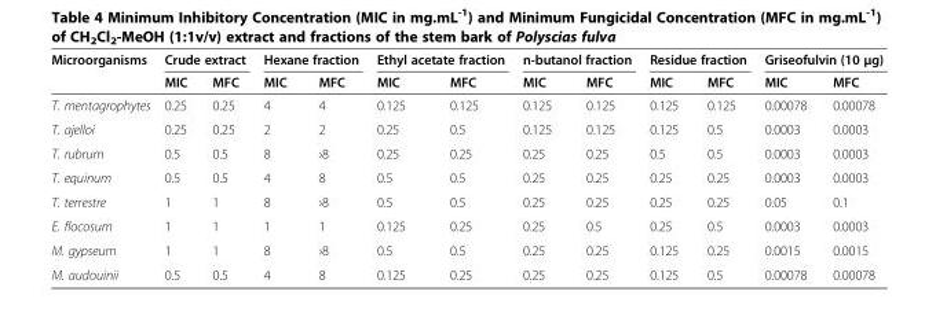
<table><thead><tr><td rowspan="2">Microorganisms</td><td colspan="2">Crude extract</td><td colspan="2">Hexane fraction</td><td colspan="2">Ethyl acetate fraction</td><td colspan="2">n-butanol fraction</td><td colspan="2">Residue fraction</td><td colspan="2">Griseofulvin (10 μg)</td></tr><tr><td>MIC</td><td>MFC</td><td>MIC</td><td>MFC</td><td>MIC</td><td>MFC</td><td>MIC</td><td>MFC</td><td>MIC</td><td>MFC</td><td>MIC</td><td>MFC</td></tr></thead><tbody><tr><td>T. mentagrophytes</td><td>0.25</td><td>0.25</td><td>4</td><td>4</td><td>0.125</td><td>0.125</td><td>0.125</td><td>0.125</td><td>0.125</td><td>0.125</td><td>0.00078</td><td>0.00078</td></tr><tr><td>T. ajelloi</td><td>0.25</td><td>0.25</td><td>2</td><td>2</td><td>0.25</td><td>0.5</td><td>0.125</td><td>0.125</td><td>0.125</td><td>0.5</td><td>0.0003</td><td>0.0003</td></tr><tr><td>T. rubrum</td><td>0.5</td><td>0.5</td><td>8</td><td>›8</td><td>0.25</td><td>0.25</td><td>0.25</td><td>0.25</td><td>0.5</td><td>0.5</td><td>0.0003</td><td>0.0003</td></tr><tr><td>T. equinum</td><td>0.5</td><td>0.5</td><td>4</td><td>8</td><td>0.5</td><td>0.5</td><td>0.25</td><td>0.25</td><td>0.25</td><td>0.25</td><td>0.0003</td><td>0.0003</td></tr><tr><td>T. terrestre</td><td>1</td><td>1</td><td>8</td><td>›8</td><td>0.5</td><td>0.5</td><td>0.25</td><td>0.25</td><td>0.25</td><td>0.25</td><td>0.05</td><td>0.1</td></tr><tr><td>E. flocosum</td><td>1</td><td>1</td><td>1</td><td>1</td><td>0.125</td><td>0.25</td><td>0.25</td><td>0.5</td><td>0.25</td><td>0.5</td><td>0.0003</td><td>0.0003</td></tr><tr><td>M. gypseum</td><td>1</td><td>1</td><td>8</td><td>›8</td><td>0.5</td><td>0.5</td><td>0.25</td><td>0.25</td><td>0.125</td><td>0.25</td><td>0.0015</td><td>0.0015</td></tr><tr><td>M. audouinii</td><td>0.5</td><td>0.5</td><td>4</td><td>8</td><td>0.125</td><td>0.25</td><td>0.25</td><td>0.25</td><td>0.125</td><td>0.5</td><td>0.00078</td><td>0.00078</td></tr></tbody></table>